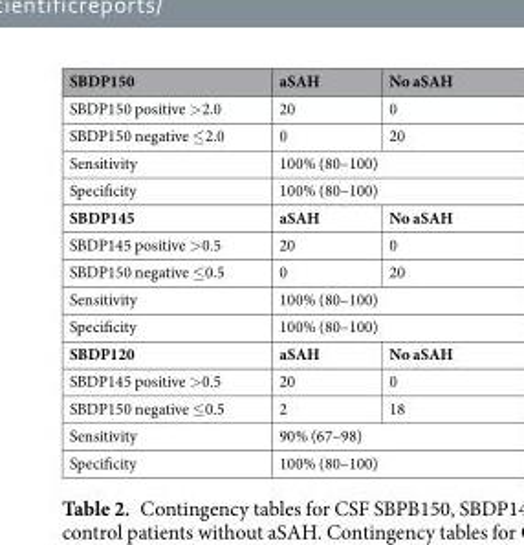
<table><thead><tr><td>SBDP150</td><td>aSAH</td><td>No aSAH</td></tr></thead><tbody><tr><td>SBDP150 positive &gt;2.0</td><td>20</td><td>0</td></tr><tr><td>SBDP150 negative ≤2.0</td><td>0</td><td>20</td></tr><tr><td>Sensitivity</td><td colspan="2">100% (80–100)</td></tr><tr><td>Specificity</td><td colspan="2">100% (80–100)</td></tr><tr><td>SBDP145</td><td>aSAH</td><td>No aSAH</td></tr><tr><td>SBDP145 positive &gt;0.5</td><td>20</td><td>0</td></tr><tr><td>SBDP150 negative ≤0.5</td><td>0</td><td>20</td></tr><tr><td>Sensitivity</td><td colspan="2">100% (80–100)</td></tr><tr><td>Specificity</td><td colspan="2">100% (80–100)</td></tr><tr><td>SBDP120</td><td>aSAH</td><td>No aSAH</td></tr><tr><td>SBDP145 positive &gt;0.5</td><td>20</td><td>0</td></tr><tr><td>SBDP150 negative ≤0.5</td><td>2</td><td>18</td></tr><tr><td>Sensitivity</td><td colspan="2">90% (67–98)</td></tr><tr><td>Specificity</td><td colspan="2">100% (80–100)</td></tr></tbody></table>